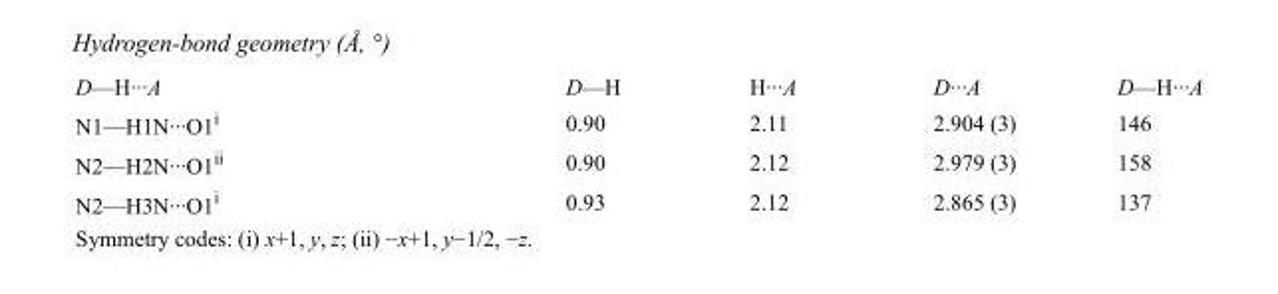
<table><tbody><tr><td>D—H···A</td><td>D—H</td><td>H···A</td><td>D···A</td><td>D—H···A</td></tr><tr><td>N1—H1N···O1<sup>i</sup></td><td>0.90</td><td>2.11</td><td>2.904 (3)</td><td>146</td></tr><tr><td>N2—H2N···O1<sup>ii</sup></td><td>0.90</td><td>2.12</td><td>2.979 (3)</td><td>158</td></tr><tr><td>N2—H3N···O1<sup>i</sup></td><td>0.93</td><td>2.12</td><td>2.865 (3)</td><td>137</td></tr></tbody></table>